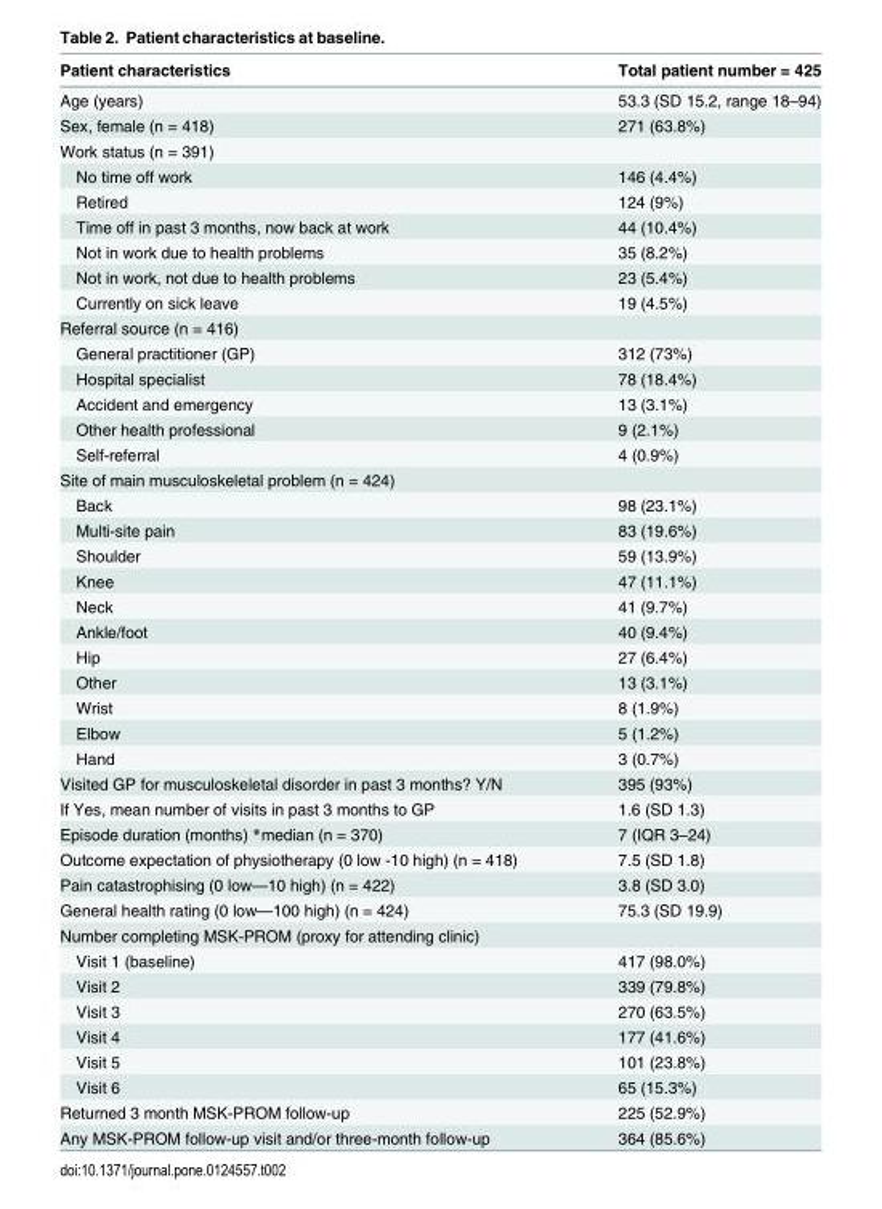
<table><thead><tr><td>Patient characteristics</td><td>Total patient number = 425</td></tr></thead><tbody><tr><td>Age (years)</td><td>53.3 (SD 15.2, range 18–94)</td></tr><tr><td>Sex, female (n = 418)</td><td>271 (63.8%)</td></tr><tr><td colspan="2">Work status (n = 391)</td></tr><tr><td>No time off work</td><td>146 (4.4%)</td></tr><tr><td>Retired</td><td>124 (9%)</td></tr><tr><td>Time off in past 3 months, now back at work</td><td>44 (10.4%)</td></tr><tr><td>Not in work due to health problems</td><td>35 (8.2%)</td></tr><tr><td>Not in work, not due to health problems</td><td>23 (5.4%)</td></tr><tr><td>Currently on sick leave</td><td>19 (4.5%)</td></tr><tr><td colspan="2">Referral source (n = 416)</td></tr><tr><td>General practitioner (GP)</td><td>312 (73%)</td></tr><tr><td>Hospital specialist</td><td>78 (18.4%)</td></tr><tr><td>Accident and emergency</td><td>13 (3.1%)</td></tr><tr><td>Other health professional</td><td>9 (2.1%)</td></tr><tr><td>Self-referral</td><td>4 (0.9%)</td></tr><tr><td colspan="2">Site of main musculoskeletal problem (n = 424)</td></tr><tr><td>Back</td><td>98 (23.1%)</td></tr><tr><td>Multi-site pain</td><td>83 (19.6%)</td></tr><tr><td>Shoulder</td><td>59 (13.9%)</td></tr><tr><td>Knee</td><td>47 (11.1%)</td></tr><tr><td>Neck</td><td>41 (9.7%)</td></tr><tr><td>Ankle/foot</td><td>40 (9.4%)</td></tr><tr><td>Hip</td><td>27 (6.4%)</td></tr><tr><td>Other</td><td>13 (3.1%)</td></tr><tr><td>Wrist</td><td>8 (1.9%)</td></tr><tr><td>Elbow</td><td>5 (1.2%)</td></tr><tr><td>Hand</td><td>3 (0.7%)</td></tr><tr><td>Visited GP for musculoskeletal disorder in past 3 months? Y/N</td><td>395 (93%)</td></tr><tr><td>If Yes, mean number of visits in past 3 months to GP</td><td>1.6 (SD 1.3)</td></tr><tr><td>Episode duration (months) *median (n = 370)</td><td>7 (IQR 3–24)</td></tr><tr><td>Outcome expectation of physiotherapy (0 low -10 high) (n = 418)</td><td>7.5 (SD 1.8)</td></tr><tr><td>Pain catastrophising (0 low—10 high) (n = 422)</td><td>3.8 (SD 3.0)</td></tr><tr><td>General health rating (0 low—100 high) (n = 424)</td><td>75.3 (SD 19.9)</td></tr><tr><td colspan="2">Number completing MSK-PROM (proxy for attending clinic)</td></tr><tr><td>Visit 1 (baseline)</td><td>417 (98.0%)</td></tr><tr><td>Visit 2</td><td>339 (79.8%)</td></tr><tr><td>Visit 3</td><td>270 (63.5%)</td></tr><tr><td>Visit 4</td><td>177 (41.6%)</td></tr><tr><td>Visit 5</td><td>101 (23.8%)</td></tr><tr><td>Visit 6</td><td>65 (15.3%)</td></tr><tr><td>Returned 3 month MSK-PROM follow-up</td><td>225 (52.9%)</td></tr><tr><td>Any MSK-PROM follow-up visit and/or three-month follow-up</td><td>364 (85.6%)</td></tr></tbody></table>